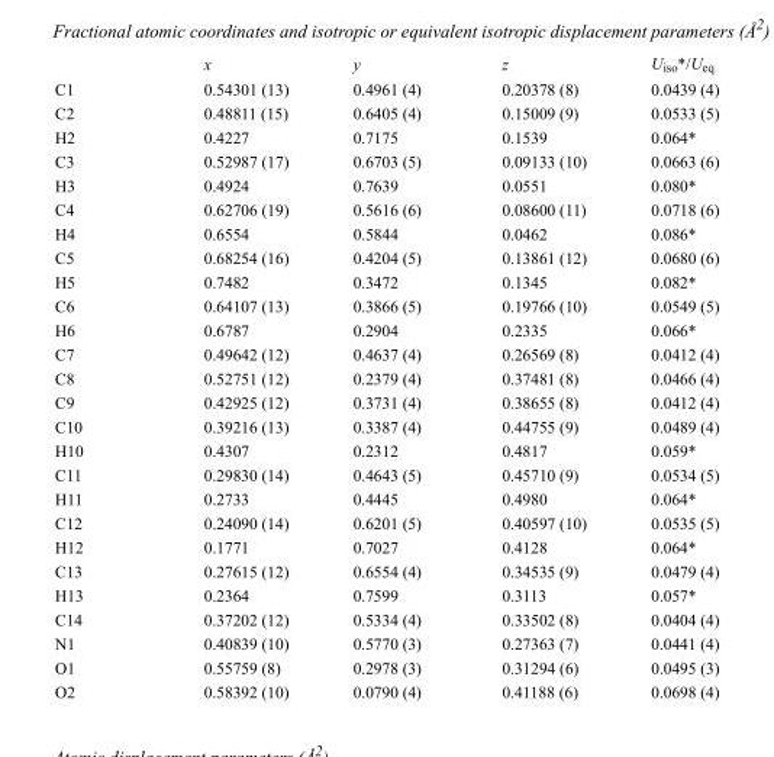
<table><thead><tr><td></td><td>x</td><td>y</td><td>z</td><td>U<sub>iso</sub>*/U<sub>eq</sub></td></tr></thead><tbody><tr><td>C1</td><td>0.54301 (13)</td><td>0.4961 (4)</td><td>0.20378 (8)</td><td>0.0439 (4)</td></tr><tr><td>C2</td><td>0.48811 (15)</td><td>0.6405 (4)</td><td>0.15009 (9)</td><td>0.0533 (5)</td></tr><tr><td>H2</td><td>0.4227</td><td>0.7175</td><td>0.1539</td><td>0.064*</td></tr><tr><td>C3</td><td>0.52987 (17)</td><td>0.6703 (5)</td><td>0.09133 (10)</td><td>0.0663 (6)</td></tr><tr><td>H3</td><td>0.4924</td><td>0.7639</td><td>0.0551</td><td>0.080*</td></tr><tr><td>C4</td><td>0.62706 (19)</td><td>0.5616 (6)</td><td>0.08600 (11)</td><td>0.0718 (6)</td></tr><tr><td>H4</td><td>0.6554</td><td>0.5844</td><td>0.0462</td><td>0.086*</td></tr><tr><td>C5</td><td>0.68254 (16)</td><td>0.4204 (5)</td><td>0.13861 (12)</td><td>0.0680 (6)</td></tr><tr><td>H5</td><td>0.7482</td><td>0.3472</td><td>0.1345</td><td>0.082*</td></tr><tr><td>C6</td><td>0.64107 (13)</td><td>0.3866 (5)</td><td>0.19766 (10)</td><td>0.0549 (5)</td></tr><tr><td>H6</td><td>0.6787</td><td>0.2904</td><td>0.2335</td><td>0.066*</td></tr><tr><td>C7</td><td>0.49642 (12)</td><td>0.4637 (4)</td><td>0.26569 (8)</td><td>0.0412 (4)</td></tr><tr><td>C8</td><td>0.52751 (12)</td><td>0.2379 (4)</td><td>0.37481 (8)</td><td>0.0466 (4)</td></tr><tr><td>C9</td><td>0.42925 (12)</td><td>0.3731 (4)</td><td>0.38655 (8)</td><td>0.0412 (4)</td></tr><tr><td>C10</td><td>0.39216 (13)</td><td>0.3387 (4)</td><td>0.44755 (9)</td><td>0.0489 (4)</td></tr><tr><td>H10</td><td>0.4307</td><td>0.2312</td><td>0.4817</td><td>0.059*</td></tr><tr><td>C11</td><td>0.29830 (14)</td><td>0.4643 (5)</td><td>0.45710 (9)</td><td>0.0534 (5)</td></tr><tr><td>H11</td><td>0.2733</td><td>0.4445</td><td>0.4980</td><td>0.064*</td></tr><tr><td>C12</td><td>0.24090 (14)</td><td>0.6201 (5)</td><td>0.40597 (10)</td><td>0.0535 (5)</td></tr><tr><td>H12</td><td>0.1771</td><td>0.7027</td><td>0.4128</td><td>0.064*</td></tr><tr><td>C13</td><td>0.27615 (12)</td><td>0.6554 (4)</td><td>0.34535 (9)</td><td>0.0479 (4)</td></tr><tr><td>H13</td><td>0.2364</td><td>0.7599</td><td>0.3113</td><td>0.057*</td></tr><tr><td>C14</td><td>0.37202 (12)</td><td>0.5334 (4)</td><td>0.33502 (8)</td><td>0.0404 (4)</td></tr><tr><td>N1</td><td>0.40839 (10)</td><td>0.5770 (3)</td><td>0.27363 (7)</td><td>0.0441 (4)</td></tr><tr><td>O1</td><td>0.55759 (8)</td><td>0.2978 (3)</td><td>0.31294 (6)</td><td>0.0495 (3)</td></tr><tr><td>O2</td><td>0.58392 (10)</td><td>0.0790 (4)</td><td>0.41188 (6)</td><td>0.0698 (4)</td></tr></tbody></table>